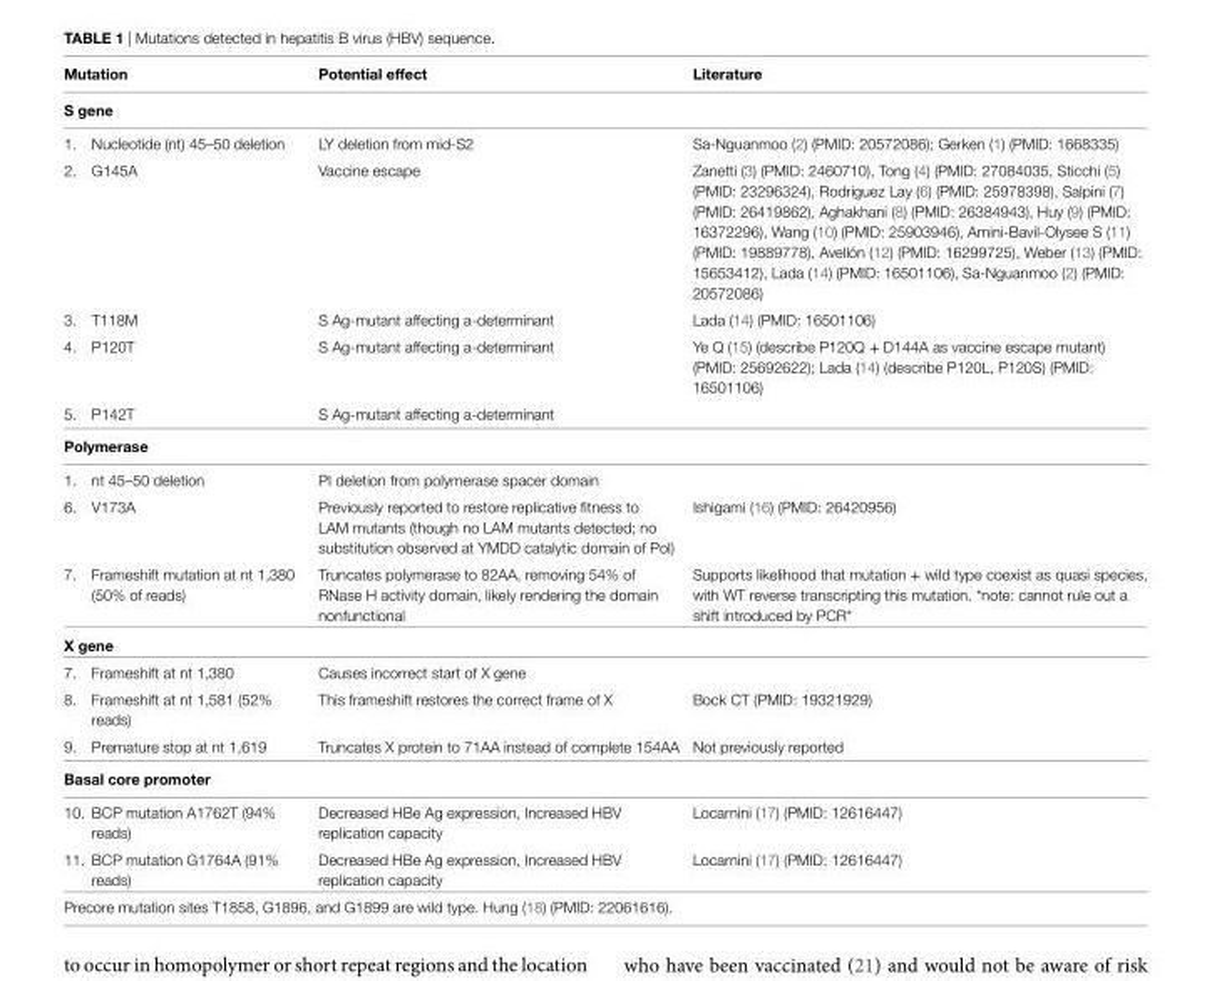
<table><thead><tr><td>Mutation</td><td>potential effect</td><td>Literature</td></tr></thead><tbody><tr><td colspan="3">s gene</td></tr><tr><td>1. Nucleotide (nt) 45–50 deletion</td><td>LY deletion from mid-S2</td><td>Sa-Nguanmoo (2) (PMID: 20572086); Gerken (1) (PMID: 1668335)</td></tr><tr><td>2. G145A</td><td>Vaccine escape</td><td>Zanetti (3) (PMID: 2460710), Tong (4) (PMID: 27084035, Sticchi (5) (PMID: 23296324), Rodríguez Lay (6) (PMID: 25978398), Salpini (7) (PMID: 26419862), Aghakhani (8) (PMID: 26384943), Huy (9) (PMID: 16372296), Wang (10) (PMID: 25903946), Amini-Bavil-Olysee S (11) (PMID: 19889778), Avellón (12) (PMID: 16299725), Weber (13) (PMID: 15653412), Lada (14) (PMID: 16501106), Sa-Nguanmoo (2) (PMID: 20572086)</td></tr><tr><td>3. T118M</td><td>S Ag-mutant affecting a-determinant</td><td>Lada (14) (PMID: 16501106)</td></tr><tr><td>4. P120T</td><td>S Ag-mutant affecting a-determinant</td><td>Ye Q (15) (describe P120Q + D144A as vaccine escape mutant) (PMID: 25692622); Lada (14) (describe P120L, P120S) (PMID: 16501106)</td></tr><tr><td>5. P142T</td><td>S Ag-mutant affecting a-determinant</td><td></td></tr><tr><td colspan="3">polymerase</td></tr><tr><td>1. nt 45–50 deletion</td><td>PI deletion from polymerase spacer domain</td><td></td></tr><tr><td>6. V173A</td><td>Previously reported to restore replicative fitness to LAM mutants (though no LAM mutants detected; no substitution observed at YMDD catalytic domain of Pol)</td><td>Ishigami (16) (PMID: 26420956)</td></tr><tr><td>7. Frameshift mutation at nt 1,380 (50% of reads)</td><td>Truncates polymerase to 82AA, removing 54% of RNase H activity domain, likely rendering the domain nonfunctional</td><td>Supports likelihood that mutation + wild type coexist as quasi species, with WT reverse transcripting this mutation. *note: cannot rule out a shift introduced by PCR*</td></tr><tr><td colspan="3">X gene</td></tr><tr><td>7. Frameshift at nt 1,380</td><td>Causes incorrect start of X gene</td><td></td></tr><tr><td>8. Frameshift at nt 1,581 (52% reads)</td><td>This frameshift restores the correct frame of X</td><td>Bock CT (PMID: 19321929)</td></tr><tr><td>9. Premature stop at nt 1,619</td><td>Truncates X protein to 71AA instead of complete 154AA</td><td>Not previously reported</td></tr><tr><td colspan="3">Basal core promoter</td></tr><tr><td>10. BCP mutation A1762T (94% reads)</td><td>Decreased HBe Ag expression, Increased HBV replication capacity</td><td>Locarnini (17) (PMID: 12616447)</td></tr><tr><td>11. BCP mutation G1764A (91% reads)</td><td>Decreased HBe Ag expression, Increased HBV replication capacity</td><td>Locarnini (17) (PMID: 12616447)</td></tr><tr><td colspan="3">Precore mutation sites T1858, G1896, and G1899 are wild type. Hung (18) (PMID: 22061616).</td></tr></tbody></table>